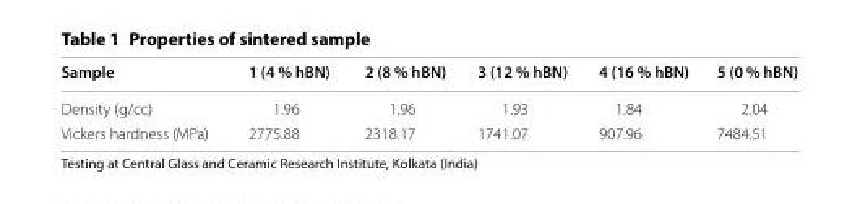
<table><thead><tr><td>Sample</td><td>1 (4 % hBN)</td><td>2 (8 % hBN)</td><td>3 (12 % hBN)</td><td>4 (16 % hBN)</td><td>5 (0 % hBN)</td></tr></thead><tbody><tr><td>Density (g/cc)</td><td>1.96</td><td>1.96</td><td>1.93</td><td>1.84</td><td>2.04</td></tr><tr><td>Vickers hardness (MPa)</td><td>2775.88</td><td>2318.17</td><td>1741.07</td><td>907.96</td><td>7484.51</td></tr></tbody></table>